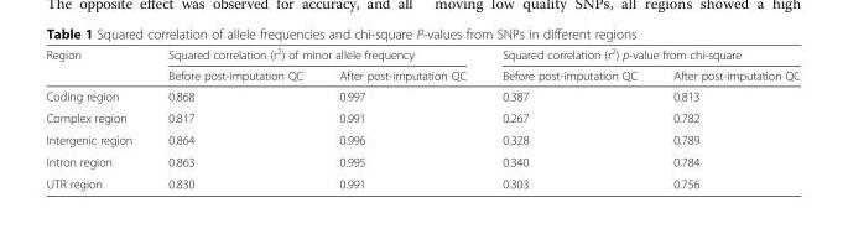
<table><thead><tr><td rowspan="2">Region</td><td colspan="2">Squared correlation (r<sup>2</sup>) of minor allele frequency</td><td colspan="2">Squared correlation (r<sup>2</sup>) p-value from chi-square</td></tr><tr><td>Before post-imputation QC</td><td>After post-imputation QC</td><td>Before post-imputation QC</td><td>After post-imputation QC</td></tr></thead><tbody><tr><td>Coding region</td><td>0.868</td><td>0.997</td><td>0.387</td><td>0.813</td></tr><tr><td>Complex region</td><td>0.817</td><td>0.991</td><td>0.267</td><td>0.782</td></tr><tr><td>Intergenic region</td><td>0.864</td><td>0.996</td><td>0.328</td><td>0.789</td></tr><tr><td>Intron region</td><td>0.863</td><td>0.995</td><td>0.340</td><td>0.784</td></tr><tr><td>UTR region</td><td>0.830</td><td>0.991</td><td>0.303</td><td>0.756</td></tr></tbody></table>